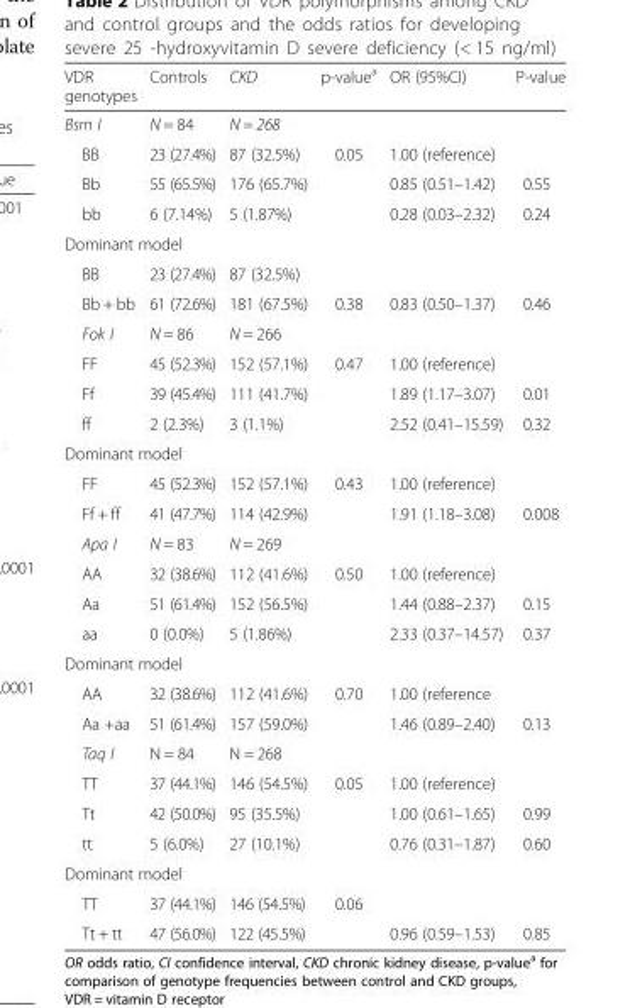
<table><thead><tr><td>VDR genotypes</td><td>Controls</td><td>CKD</td><td>p-value<sup>a</sup></td><td>OR (95%CI)</td><td>P-value</td></tr></thead><tbody><tr><td>Bsm I</td><td>N = 84</td><td>N = 268</td><td></td><td></td><td></td></tr><tr><td>BB</td><td>23 (27.4%)</td><td>87 (32.5%)</td><td>0.05</td><td>1.00 (reference)</td><td></td></tr><tr><td>Bb</td><td>55 (65.5%)</td><td>176 (65.7%)</td><td></td><td>0.85 (0.51–1.42)</td><td>0.55</td></tr><tr><td>bb</td><td>6 (7.14%)</td><td>5 (1.87%)</td><td></td><td>0.28 (0.03–2.32)</td><td>0.24</td></tr><tr><td colspan="6">Dominant model</td></tr><tr><td>BB</td><td>23 (27.4%)</td><td>87 (32.5%)</td><td></td><td></td><td></td></tr><tr><td>Bb + bb</td><td>61 (72.6%)</td><td>181 (67.5%)</td><td>0.38</td><td>0.83 (0.50–1.37)</td><td>0.46</td></tr><tr><td>Fok I</td><td>N = 86</td><td>N = 266</td><td></td><td></td><td></td></tr><tr><td>FF</td><td>45 (52.3%)</td><td>152 (57.1%)</td><td>0.47</td><td>1.00 (reference)</td><td></td></tr><tr><td>Ff</td><td>39 (45.4%)</td><td>111 (41.7%)</td><td></td><td>1.89 (1.17–3.07)</td><td>0.01</td></tr><tr><td>ff</td><td>2 (2.3%)</td><td>3 (1.1%)</td><td></td><td>2.52 (0.41–15.59)</td><td>0.32</td></tr><tr><td colspan="6">Dominant model</td></tr><tr><td>FF</td><td>45 (52.3%)</td><td>152 (57.1%)</td><td>0.43</td><td>1.00 (reference)</td><td></td></tr><tr><td>Ff + ff</td><td>41 (47.7%)</td><td>114 (42.9%)</td><td></td><td>1.91 (1.18–3.08)</td><td>0.008</td></tr><tr><td>Apa I</td><td>N = 83</td><td>N = 269</td><td></td><td></td><td></td></tr><tr><td>AA</td><td>32 (38.6%)</td><td>112 (41.6%)</td><td>0.50</td><td>1.00 (reference)</td><td></td></tr><tr><td>Aa</td><td>51 (61.4%)</td><td>152 (56.5%)</td><td></td><td>1.44 (0.88–2.37)</td><td>0.15</td></tr><tr><td>aa</td><td>0 (0.0%)</td><td>5 (1.86%)</td><td></td><td>2.33 (0.37–14.57)</td><td>0.37</td></tr><tr><td colspan="6">Dominant model</td></tr><tr><td>AA</td><td>32 (38.6%)</td><td>112 (41.6%)</td><td>0.70</td><td>1.00 (reference</td><td></td></tr><tr><td>Aa +aa</td><td>51 (61.4%)</td><td>157 (59.0%)</td><td></td><td>1.46 (0.89–2.40)</td><td>0.13</td></tr><tr><td>Taq I</td><td>N = 84</td><td>N = 268</td><td></td><td></td><td></td></tr><tr><td>TT</td><td>37 (44.1%)</td><td>146 (54.5%)</td><td>0.05</td><td>1.00 (reference)</td><td></td></tr><tr><td>Tt</td><td>42 (50.0%)</td><td>95 (35.5%)</td><td></td><td>1.00 (0.61–1.65)</td><td>0.99</td></tr><tr><td>tt</td><td>5 (6.0%)</td><td>27 (10.1%)</td><td></td><td>0.76 (0.31–1.87)</td><td>0.60</td></tr><tr><td colspan="6">Dominant model</td></tr><tr><td>TT</td><td>37 (44.1%)</td><td>146 (54.5%)</td><td>0.06</td><td></td><td></td></tr><tr><td>Tt + tt</td><td>47 (56.0%)</td><td>122 (45.5%)</td><td></td><td>0.96 (0.59–1.53)</td><td>0.85</td></tr></tbody></table>